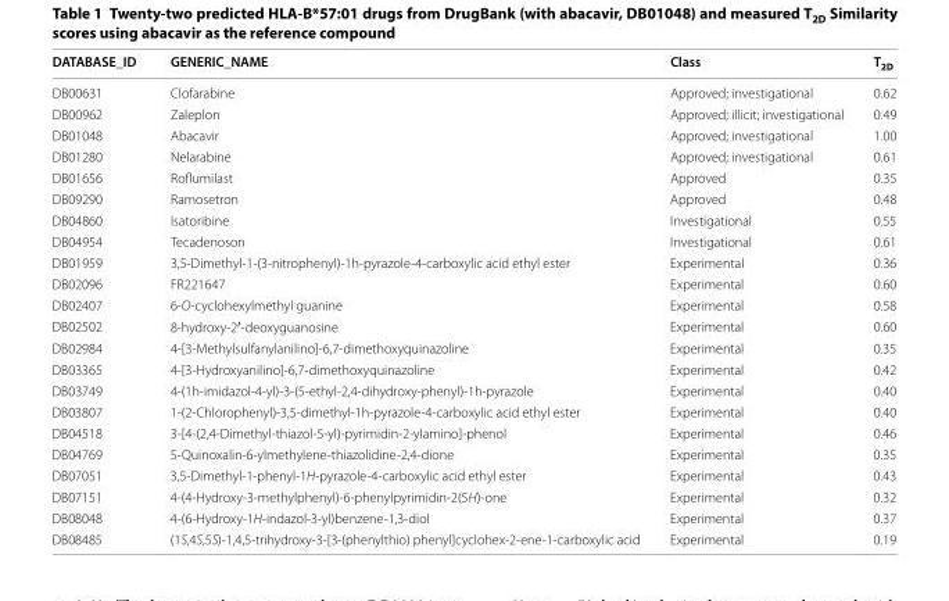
<table><thead><tr><td>DATABASE_ID</td><td>GENERIC_NAME</td><td>Class</td><td>T<sub>2D</sub></td></tr></thead><tbody><tr><td>DB00631</td><td>Clofarabine</td><td>Approved; investigational</td><td>0.62</td></tr><tr><td>DB00962</td><td>Zaleplon</td><td>Approved; illicit; investigational</td><td>0.49</td></tr><tr><td>DB01048</td><td>Abacavir</td><td>Approved; investigational</td><td>1.00</td></tr><tr><td>DB01280</td><td>Nelarabine</td><td>Approved; investigational</td><td>0.61</td></tr><tr><td>DB01656</td><td>Roflumilast</td><td>Approved</td><td>0.35</td></tr><tr><td>DB09290</td><td>Ramosetron</td><td>Approved</td><td>0.48</td></tr><tr><td>DB04860</td><td>Isatoribine</td><td>Investigational</td><td>0.55</td></tr><tr><td>DB04954</td><td>Tecadenoson</td><td>Investigational</td><td>0.61</td></tr><tr><td>DB01959</td><td>3,5-Dimethyl-1-(3-nitrophenyl)-1h-pyrazole-4-carboxylic acid ethyl ester</td><td>Experimental</td><td>0.36</td></tr><tr><td>DB02096</td><td>FR221647</td><td>Experimental</td><td>0.60</td></tr><tr><td>DB02407</td><td>6-O-cyclohexylmethyl guanine</td><td>Experimental</td><td>0.58</td></tr><tr><td>DB02502</td><td>8-hydroxy-2′-deoxyguanosine</td><td>Experimental</td><td>0.60</td></tr><tr><td>DB02984</td><td>4-[3-Methylsulfanylanilino]-6,7-dimethoxyquinazoline</td><td>Experimental</td><td>0.35</td></tr><tr><td>DB03365</td><td>4-[3-Hydroxyanilino]-6,7-dimethoxyquinazoline</td><td>Experimental</td><td>0.42</td></tr><tr><td>DB03749</td><td>4-(1h-imidazol-4-yl)-3-(5-ethyl-2,4-dihydroxy-phenyl)-1h-pyrazole</td><td>Experimental</td><td>0.40</td></tr><tr><td>DB03807</td><td>1-(2-Chlorophenyl)-3,5-dimethyl-1h-pyrazole-4-carboxylic acid ethyl ester</td><td>Experimental</td><td>0.40</td></tr><tr><td>DB04518</td><td>3-[4-(2,4-Dimethyl-thiazol-5-yl)-pyrimidin-2-ylamino]-phenol</td><td>Experimental</td><td>0.46</td></tr><tr><td>DB04769</td><td>5-Quinoxalin-6-ylmethylene-thiazolidine-2,4-dione</td><td>Experimental</td><td>0.35</td></tr><tr><td>DB07051</td><td>3,5-Dimethyl-1-phenyl-1H-pyrazole-4-carboxylic acid ethyl ester</td><td>Experimental</td><td>0.43</td></tr><tr><td>DB07151</td><td>4-(4-Hydroxy-3-methylphenyl)-6-phenylpyrimidin-2(5H)-one</td><td>Experimental</td><td>0.32</td></tr><tr><td>DB08048</td><td>4-(6-Hydroxy-1H-indazol-3-yl)benzene-1,3-diol</td><td>Experimental</td><td>0.37</td></tr><tr><td>DB08485</td><td>(1S,4S,5S)-1,4,5-trihydroxy-3-[3-(phenylthio) phenyl]cyclohex-2-ene-1-carboxylic acid</td><td>Experimental</td><td>0.19</td></tr></tbody></table>